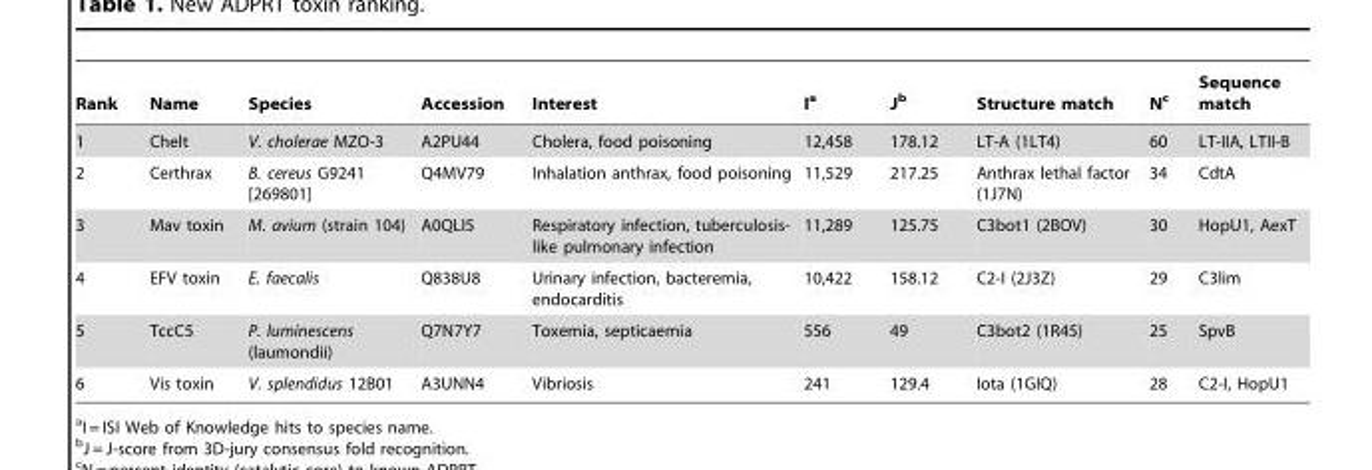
<table><thead><tr><td>Rank</td><td>Name</td><td>Species</td><td>Accession</td><td>Interest</td><td>I<sup>a</sup></td><td>J<sup>b</sup></td><td>Structure match</td><td>N<sup>c</sup></td><td>Sequence match</td></tr></thead><tbody><tr><td>1</td><td>Chelt</td><td>V. cholerae MZO-3</td><td>A2PU44</td><td>Cholera, food poisoning</td><td>12,458</td><td>178.12</td><td>LT-A (1LT4)</td><td>60</td><td>LT-IIA, LTII-B</td></tr><tr><td>2</td><td>Certhrax</td><td>B. cereus G9241 [269801]</td><td>Q4MV79</td><td>Inhalation anthrax, food poisoning</td><td>11,529</td><td>217.25</td><td>Anthrax lethal factor (1J7N)</td><td>34</td><td>CdtA</td></tr><tr><td>3</td><td>Mav toxin</td><td>M. avium (strain 104)</td><td>A0QLI5</td><td>Respiratory infection, tuberculosis- like pulmonary infection</td><td>11,289</td><td>125.75</td><td>C3bot1 (2BOV)</td><td>30</td><td>HopU1, AexT</td></tr><tr><td>4</td><td>EFV toxin</td><td>E. faecalis</td><td>Q838U8</td><td>Urinary infection, bacteremia, endocarditis</td><td>10,422</td><td>158.12</td><td>C2-I (2J3Z)</td><td>29</td><td>C3lim</td></tr><tr><td>5</td><td>TccC5</td><td>P. luminescens (laumondii)</td><td>Q7N7Y7</td><td>Toxemia, septicaemia</td><td>556</td><td>49</td><td>C3bot2 (1R45)</td><td>25</td><td>SpvB</td></tr><tr><td>6</td><td>Vis toxin</td><td>V. splendidus 12B01</td><td>A3UNN4</td><td>Vibriosis</td><td>241</td><td>129.4</td><td>Iota (1GIQ)</td><td>28</td><td>C2-I, HopU1</td></tr></tbody></table>